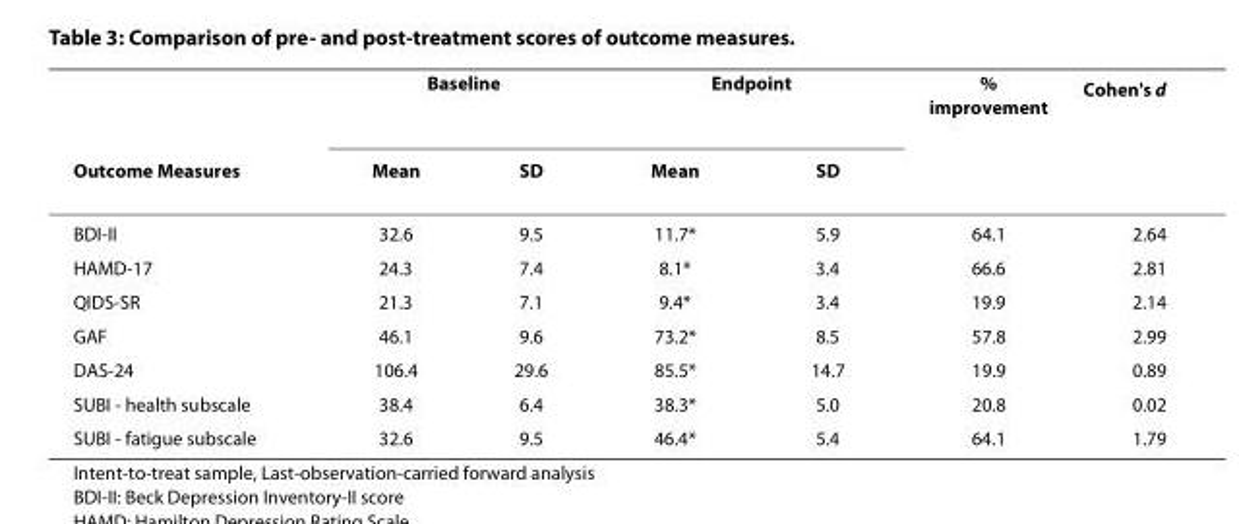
<table><thead><tr><td rowspan="2">Outcome Measures</td><td colspan="2">Baseline</td><td colspan="2">Endpoint</td><td rowspan="2">% improvement</td><td rowspan="2">Cohen&#x27;s d</td></tr><tr><td>Mean</td><td>SD</td><td>Mean</td><td>SD</td></tr></thead><tbody><tr><td>BDI-II</td><td>32.6</td><td>9.5</td><td>11.7*</td><td>5.9</td><td>64.1</td><td>2.64</td></tr><tr><td>HAMD-17</td><td>24.3</td><td>7.4</td><td>8.1*</td><td>3.4</td><td>66.6</td><td>2.81</td></tr><tr><td>QIDS-SR</td><td>21.3</td><td>7.1</td><td>9.4*</td><td>3.4</td><td>19.9</td><td>2.14</td></tr><tr><td>GAF</td><td>46.1</td><td>9.6</td><td>73.2*</td><td>8.5</td><td>57.8</td><td>2.99</td></tr><tr><td>DAS-24</td><td>106.4</td><td>29.6</td><td>85.5*</td><td>14.7</td><td>19.9</td><td>0.89</td></tr><tr><td>SUBI - health subscale</td><td>38.4</td><td>6.4</td><td>38.3*</td><td>5.0</td><td>20.8</td><td>0.02</td></tr><tr><td>SUBI - fatigue subscale</td><td>32.6</td><td>9.5</td><td>46.4*</td><td>5.4</td><td>64.1</td><td>1.79</td></tr></tbody></table>